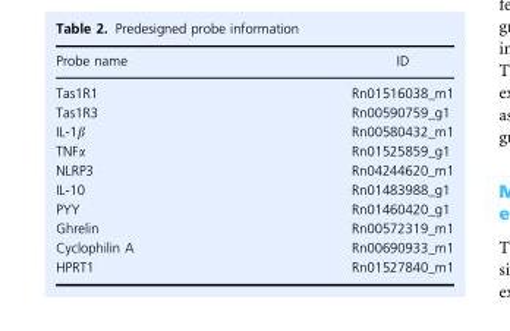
<table><thead><tr><td>Probe name</td><td>ID</td></tr></thead><tbody><tr><td>Tas1R1</td><td>Rn01516038_m1</td></tr><tr><td>Tas1R3</td><td>Rn00590759_g1</td></tr><tr><td>IL-1β</td><td>Rn00580432_m1</td></tr><tr><td>TNFα</td><td>Rn01525859_g1</td></tr><tr><td>NLRP3</td><td>Rn04244620_m1</td></tr><tr><td>IL-10</td><td>Rn01483988_g1</td></tr><tr><td>PYY</td><td>Rn01460420_g1</td></tr><tr><td>Ghrelin</td><td>Rn00572319_m1</td></tr><tr><td>Cyclophilin A</td><td>Rn00690933_m1</td></tr><tr><td>HPRT1</td><td>Rn01527840_m1</td></tr></tbody></table>